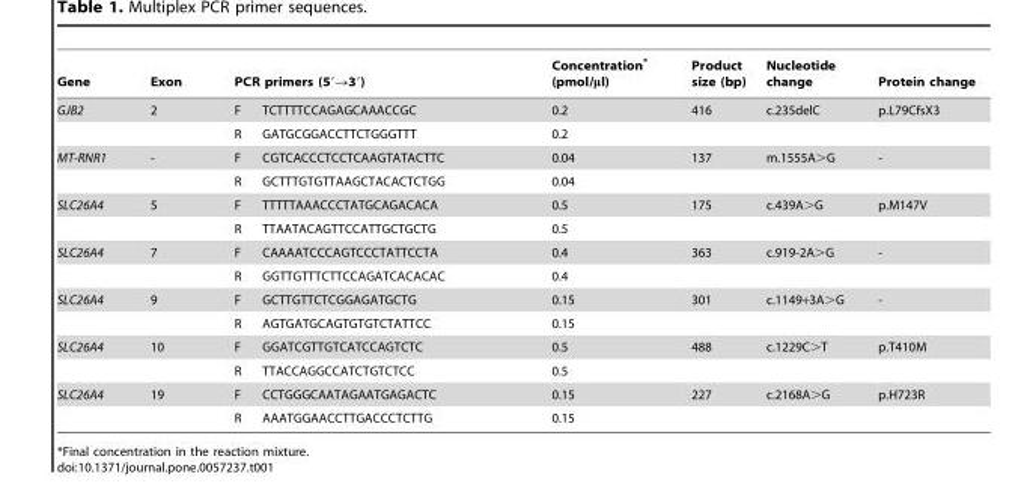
<table><thead><tr><td rowspan="2">Gene GJB2</td><td rowspan="2">Exon 2</td><td colspan="2">PCR primers (5′→3′)</td><td rowspan="2">Concentration* (pmol/μl) 0.2</td><td rowspan="2">Product size (bp) 416</td><td rowspan="2">Nucleotide change c.235delC</td><td rowspan="2">Protein change p.L79CfsX3</td></tr><tr><td>F</td><td>TCTTTTCCAGAGCAAACCGC</td></tr></thead><tbody><tr><td></td><td></td><td>R</td><td>GATGCGGACCTTCTGGGTTT</td><td>0.2</td><td></td><td></td><td></td></tr><tr><td rowspan="2">MT-RNR1</td><td>-</td><td>F</td><td>CGTCACCCTCCTCAAGTATACTTC</td><td>0.04</td><td>137</td><td>m.1555A&gt;G</td><td>-</td></tr><tr><td></td><td>R</td><td>GCTTTGTGTTAAGCTACACTCTGG</td><td>0.04</td><td></td><td></td><td></td></tr><tr><td rowspan="2">SLC26A4</td><td>5</td><td>F</td><td>TTTTTAAACCCTATGCAGACACA</td><td>0.5</td><td>175</td><td>c.439A&gt;G</td><td>p.M147V</td></tr><tr><td></td><td>R</td><td>TTAATACAGTTCCATTGCTGCTG</td><td>0.5</td><td></td><td></td><td></td></tr><tr><td rowspan="2">SLC26A4</td><td>7</td><td>F</td><td>CAAAATCCCAGTCCCTATTCCTA</td><td>0.4</td><td>363</td><td>c.919-2A&gt;G</td><td>-</td></tr><tr><td></td><td>R</td><td>GGTTGTTTCTTCCAGATCACACAC</td><td>0.4</td><td></td><td></td><td></td></tr><tr><td rowspan="2">SLC26A4</td><td>9</td><td>F</td><td>GCTTGTTCTCGGAGATGCTG</td><td>0.15</td><td>301</td><td>c.1149+3A&gt;G</td><td>-</td></tr><tr><td></td><td>R</td><td>AGTGATGCAGTGTGTCTATTCC</td><td>0.15</td><td></td><td></td><td></td></tr><tr><td rowspan="2">SLC26A4</td><td>10</td><td>F</td><td>GGATCGTTGTCATCCAGTCTC</td><td>0.5</td><td>488</td><td>c.1229C&gt;T</td><td>p.T410M</td></tr><tr><td></td><td>R</td><td>TTACCAGGCCATCTGTCTCC</td><td>0.5</td><td></td><td></td><td></td></tr><tr><td rowspan="2">SLC26A4</td><td>19</td><td>F</td><td>CCTGGGCAATAGAATGAGACTC</td><td>0.15</td><td>227</td><td>c.2168A&gt;G</td><td>p.H723R</td></tr><tr><td></td><td>R</td><td>AAATGGAACCTTGACCCTCTTG</td><td>0.15</td><td></td><td></td><td></td></tr></tbody></table>